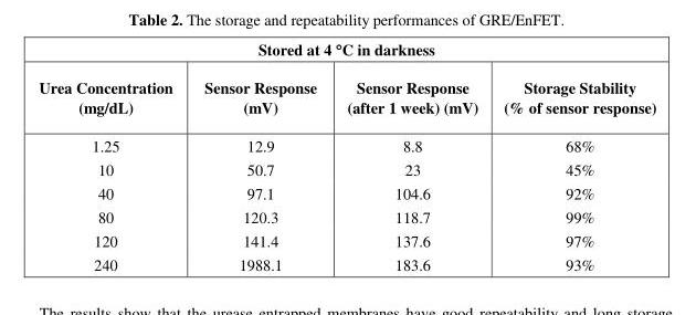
<table><thead><tr><td colspan="4">Stored at 4 °C in darkness</td></tr><tr><td>Urea Concentration (mg/dL)</td><td>Sensor Response (mV)</td><td>Sensor Response (after 1 week) (mV)</td><td>Storage Stability (% of sensor response)</td></tr></thead><tbody><tr><td>1.25</td><td>12.9</td><td>8.8</td><td>68%</td></tr><tr><td>10</td><td>50.7</td><td>23</td><td>45%</td></tr><tr><td>40</td><td>97.1</td><td>104.6</td><td>92%</td></tr><tr><td>80</td><td>120.3</td><td>118.7</td><td>99%</td></tr><tr><td>120</td><td>141.4</td><td>137.6</td><td>97%</td></tr><tr><td>240</td><td>1988.1</td><td>183.6</td><td>93%</td></tr></tbody></table>